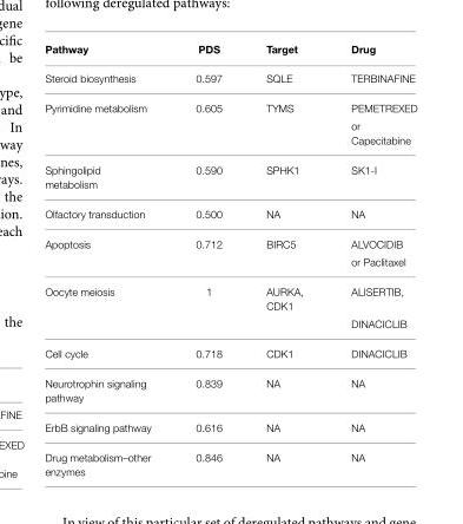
<table><thead><tr><td>Pathway</td><td>PDS</td><td>Target</td><td>Drug</td></tr></thead><tbody><tr><td>Steroid biosynthesis</td><td>0.597</td><td>SQLE</td><td>TERBINAFINE</td></tr><tr><td>Pyrimidine metabolism</td><td>0.605</td><td>TYMS</td><td>PEMETREXED or Capecitabine</td></tr><tr><td>Sphingolipid metabolism</td><td>0.590</td><td>SPHK1</td><td>SK1-I</td></tr><tr><td>Olfactory transduction</td><td>0.500</td><td>NA</td><td>NA</td></tr><tr><td>Apoptosis</td><td>0.712</td><td>BIRC5</td><td>ALVOCIDIB or Paclitaxel</td></tr><tr><td>Oocyte meiosis</td><td>1</td><td>AURKA, CDK1</td><td>ALISERTIB, DINACICLIB</td></tr><tr><td>Cell cycle</td><td>0.718</td><td>CDK1</td><td>DINACICLIB</td></tr><tr><td>Neurotrophin signaling pathway</td><td>0.839</td><td>NA</td><td>NA</td></tr><tr><td>ErbB signaling pathway</td><td>0.616</td><td>NA</td><td>NA</td></tr><tr><td>Drug metabolism–other enzymes</td><td>0.846</td><td>NA</td><td>NA</td></tr></tbody></table>